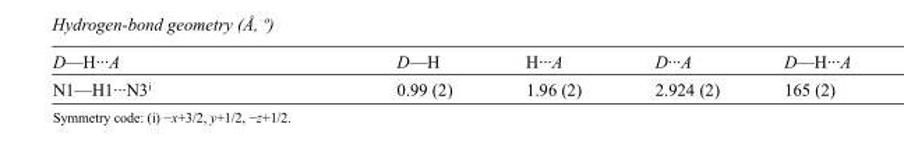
<table><tbody><tr><td>D—H···A</td><td>D—H</td><td>H···A</td><td>D···A</td><td>D—H···A</td></tr><tr><td>N1—H1···N3<sup>i</sup></td><td>0.99 (2)</td><td>1.96 (2)</td><td>2.924 (2)</td><td>165 (2)</td></tr></tbody></table>